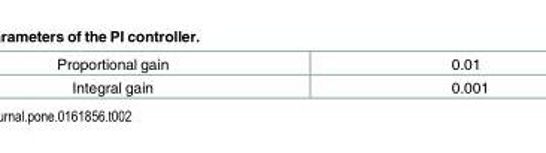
<table><tbody><tr><td>Proportional gain</td><td>0.01</td></tr><tr><td>Integral gain</td><td>0.001</td></tr></tbody></table>